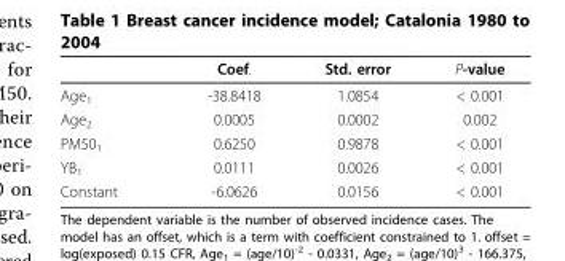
<table><thead><tr><td></td><td>Coef.</td><td>Std. error</td><td>P-value</td></tr></thead><tbody><tr><td>Age<sub>1</sub></td><td>-38.8418</td><td>1.0854</td><td>&lt; 0.001</td></tr><tr><td>Age<sub>2</sub></td><td>0.0005</td><td>0.0002</td><td>0.002</td></tr><tr><td>PM50<sub>1</sub></td><td>0.6250</td><td>0.9878</td><td>&lt; 0.001</td></tr><tr><td>YB<sub>1</sub></td><td>0.0111</td><td>0.0026</td><td>&lt; 0.001</td></tr><tr><td>Constant</td><td>-6.0626</td><td>0.0156</td><td>&lt; 0.001</td></tr></tbody></table>